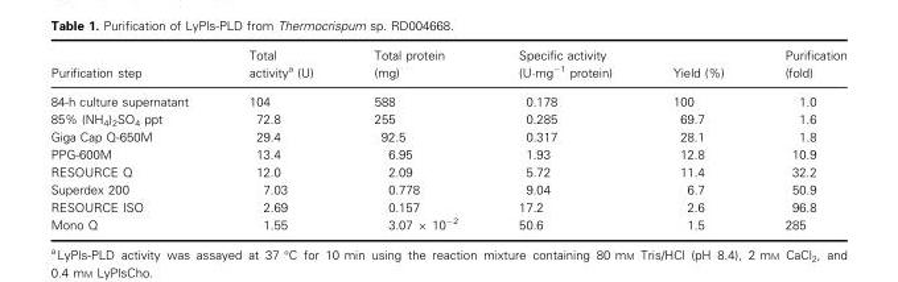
<table><thead><tr><td>Purification step</td><td>Total activity<sup>a</sup> (U)</td><td>Total protein (mg)</td><td>Specific activity (U·mg<sup>−1</sup> protein)</td><td>Yield (%)</td><td>Purification (fold)</td></tr></thead><tbody><tr><td>84-h culture supernatant</td><td>104</td><td>588</td><td>0.178</td><td>100</td><td>1.0</td></tr><tr><td>85% (NH<sub>4</sub>)<sub>2</sub>SO<sub>4</sub> ppt</td><td>72.8</td><td>255</td><td>0.285</td><td>69.7</td><td>1.6</td></tr><tr><td>Giga Cap Q-650M</td><td>29.4</td><td>92.5</td><td>0.317</td><td>28.1</td><td>1.8</td></tr><tr><td>PPG-600M</td><td>13.4</td><td>6.95</td><td>1.93</td><td>12.8</td><td>10.9</td></tr><tr><td>RESOURCE Q</td><td>12.0</td><td>2.09</td><td>5.72</td><td>11.4</td><td>32.2</td></tr><tr><td>Superdex 200</td><td>7.03</td><td>0.778</td><td>9.04</td><td>6.7</td><td>50.9</td></tr><tr><td>RESOURCE ISO</td><td>2.69</td><td>0.157</td><td>17.2</td><td>2.6</td><td>96.8</td></tr><tr><td>Mono Q</td><td>1.55</td><td>3.07 × 10<sup>−2</sup></td><td>50.6</td><td>1.5</td><td>285</td></tr></tbody></table>